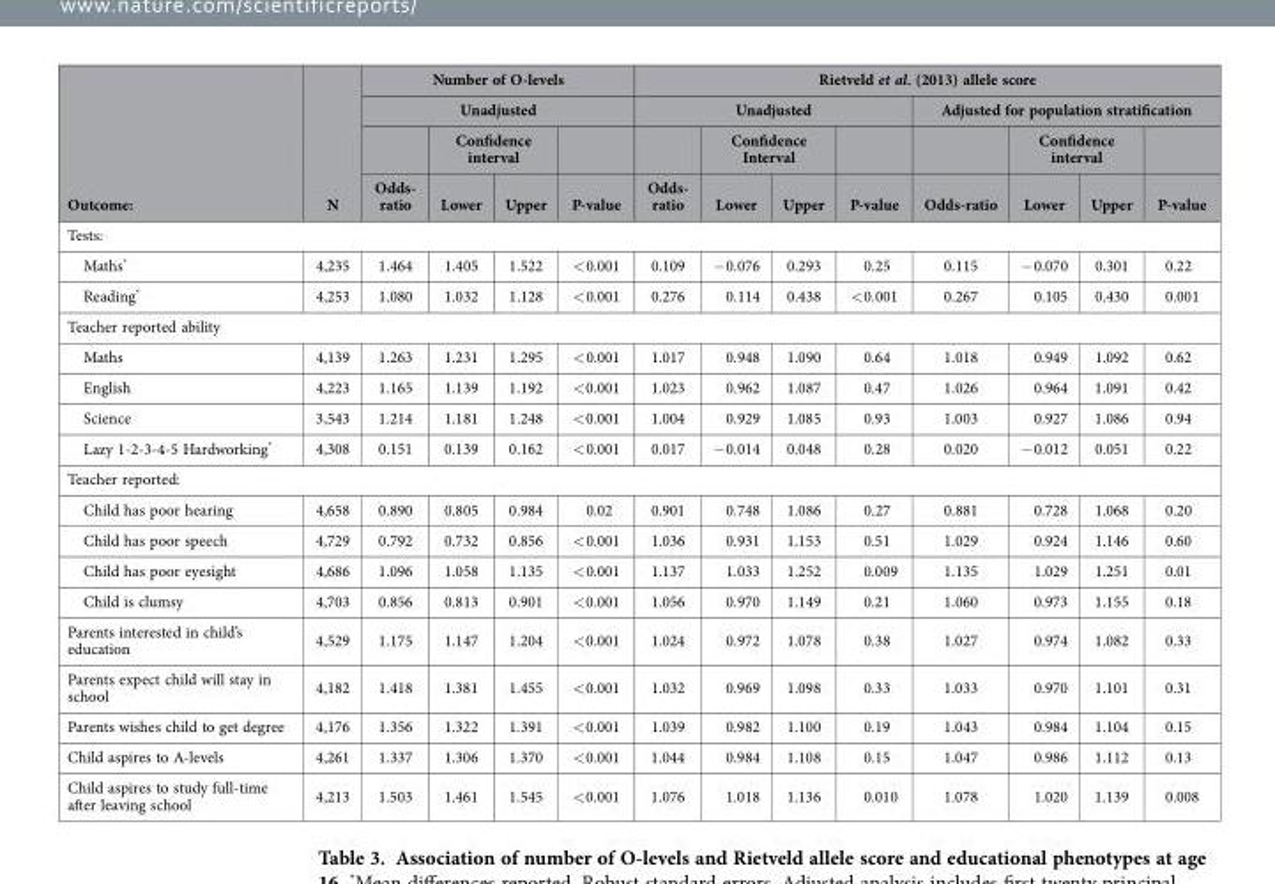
<table><thead><tr><td rowspan="4">Outcome:</td><td rowspan="4">N</td><td rowspan="2" colspan="4">Number of O-levels Unadjusted</td><td colspan="8">Rietveld et al. (2013) allele score</td></tr><tr><td colspan="4">Unadjusted</td><td colspan="4">Adjusted for population stratification</td></tr><tr><td rowspan="2">Odds- ratio</td><td colspan="2">Confidence interval</td><td rowspan="2">P-value</td><td rowspan="2">Odds- ratio</td><td colspan="2">Confidence Interval</td><td rowspan="2">P-value</td><td rowspan="2">Odds-ratio</td><td colspan="2">Confidence interval</td><td rowspan="2">P-value</td></tr><tr><td>Lower</td><td>Upper</td><td>Lower</td><td>Upper</td><td>Lower</td><td>Upper</td></tr></thead><tbody><tr><td colspan="14">Tests:</td></tr><tr><td>Maths*</td><td>4,235</td><td>1.464</td><td>1.405</td><td>1.522</td><td>&lt; 0.001</td><td>0.109</td><td>− 0.076</td><td>0.293</td><td>0.25</td><td>0.115</td><td>− 0.070</td><td>0.301</td><td>0.22</td></tr><tr><td>Reading*</td><td>4,253</td><td>1.080</td><td>1.032</td><td>1.128</td><td>&lt; 0.001</td><td>0.276</td><td>0.114</td><td>0.438</td><td>&lt; 0.001</td><td>0.267</td><td>0.105</td><td>0.430</td><td>0.001</td></tr><tr><td colspan="14">Teacher reported ability</td></tr><tr><td>Maths</td><td>4,139</td><td>1.263</td><td>1.231</td><td>1.295</td><td>&lt; 0.001</td><td>1.017</td><td>0.948</td><td>1.090</td><td>0.64</td><td>1.018</td><td>0.949</td><td>1.092</td><td>0.62</td></tr><tr><td>English</td><td>4,223</td><td>1.165</td><td>1.139</td><td>1.192</td><td>&lt; 0.001</td><td>1.023</td><td>0.962</td><td>1.087</td><td>0.47</td><td>1.026</td><td>0.964</td><td>1.091</td><td>0.42</td></tr><tr><td>Science</td><td>3,543</td><td>1.214</td><td>1.181</td><td>1.248</td><td>&lt; 0.001</td><td>1.004</td><td>0.929</td><td>1.085</td><td>0.93</td><td>1.003</td><td>0.927</td><td>1.086</td><td>0.94</td></tr><tr><td>Lazy 1-2-3-4-5 Hardworking*</td><td>4,308</td><td>0.151</td><td>0.139</td><td>0.162</td><td>&lt; 0.001</td><td>0.017</td><td>− 0.014</td><td>0.048</td><td>0.28</td><td>0.020</td><td>− 0.012</td><td>0.051</td><td>0.22</td></tr><tr><td colspan="14">Teacher reported:</td></tr><tr><td>Child has poor hearing</td><td>4,658</td><td>0.890</td><td>0.805</td><td>0.984</td><td>0.02</td><td>0.901</td><td>0.748</td><td>1.086</td><td>0.27</td><td>0.881</td><td>0.728</td><td>1.068</td><td>0.20</td></tr><tr><td>Child has poor speech</td><td>4,729</td><td>0.792</td><td>0.732</td><td>0.856</td><td>&lt; 0.001</td><td>1.036</td><td>0.931</td><td>1.153</td><td>0.51</td><td>1.029</td><td>0.924</td><td>1.146</td><td>0.60</td></tr><tr><td>Child has poor eyesight</td><td>4,686</td><td>1.096</td><td>1.058</td><td>1.135</td><td>&lt; 0.001</td><td>1.137</td><td>1.033</td><td>1.252</td><td>0.009</td><td>1.135</td><td>1.029</td><td>1.251</td><td>0.01</td></tr><tr><td>Child is clumsy</td><td>4,703</td><td>0.856</td><td>0.813</td><td>0.901</td><td>&lt; 0.001</td><td>1.056</td><td>0.970</td><td>1.149</td><td>0.21</td><td>1.060</td><td>0.973</td><td>1.155</td><td>0.18</td></tr><tr><td>Parents interested in child’s education</td><td>4,529</td><td>1.175</td><td>1.147</td><td>1.204</td><td>&lt; 0.001</td><td>1.024</td><td>0.972</td><td>1.078</td><td>0.38</td><td>1.027</td><td>0.974</td><td>1.082</td><td>0.33</td></tr><tr><td>Parents expect child will stay in school</td><td>4,182</td><td>1.418</td><td>1.381</td><td>1.455</td><td>&lt; 0.001</td><td>1.032</td><td>0.969</td><td>1.098</td><td>0.33</td><td>1.033</td><td>0.970</td><td>1.101</td><td>0.31</td></tr><tr><td>Parents wishes child to get degree</td><td>4,176</td><td>1.356</td><td>1.322</td><td>1.391</td><td>&lt; 0.001</td><td>1.039</td><td>0.982</td><td>1.100</td><td>0.19</td><td>1.043</td><td>0.984</td><td>1.104</td><td>0.15</td></tr><tr><td>Child aspires to A-levels</td><td>4,261</td><td>1.337</td><td>1.306</td><td>1.370</td><td>&lt; 0.001</td><td>1.044</td><td>0.984</td><td>1.108</td><td>0.15</td><td>1.047</td><td>0.986</td><td>1.112</td><td>0.13</td></tr><tr><td>Child aspires to study full-time after leaving school</td><td>4,213</td><td>1.503</td><td>1.461</td><td>1.545</td><td>&lt; 0.001</td><td>1.076</td><td>1.018</td><td>1.136</td><td>0.010</td><td>1.078</td><td>1.020</td><td>1.139</td><td>0.008</td></tr></tbody></table>